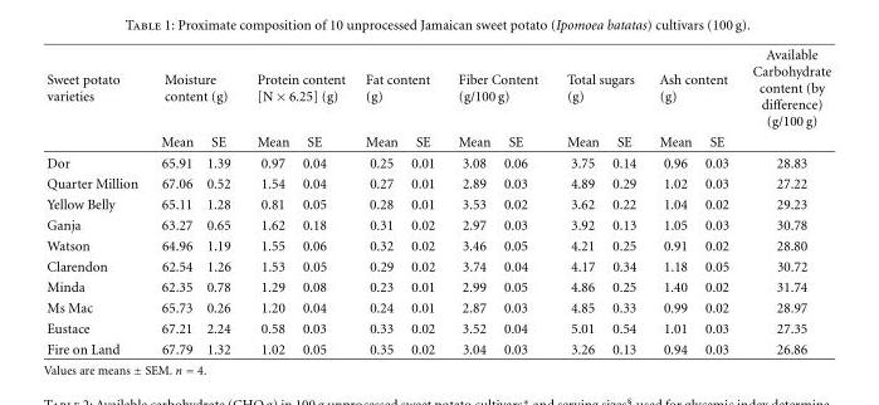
<table><thead><tr><td rowspan="2">Sweet potato varieties</td><td colspan="2">Moisture content (g)</td><td colspan="2">Protein content [N × 6.25] (g)</td><td colspan="2">Fat content (g)</td><td colspan="2">Fiber Content (g/100 g)</td><td colspan="2">Total sugars (g)</td><td colspan="2">Ash content (g)</td><td rowspan="2">Available Carbohydrate content (by difference) (g/100 g)</td></tr><tr><td>Mean</td><td>SE</td><td>Mean</td><td>SE</td><td>Mean</td><td>SE</td><td>Mean</td><td>SE</td><td>Mean</td><td>SE</td><td>Mean</td><td>SE</td></tr></thead><tbody><tr><td>Dor</td><td>65.91</td><td>1.39</td><td>0.97</td><td>0.04</td><td>0.25</td><td>0.01</td><td>3.08</td><td>0.06</td><td>3.75</td><td>0.14</td><td>0.96</td><td>0.03</td><td>28.83</td></tr><tr><td>Quarter Million</td><td>67.06</td><td>0.52</td><td>1.54</td><td>0.04</td><td>0.27</td><td>0.01</td><td>2.89</td><td>0.03</td><td>4.89</td><td>0.29</td><td>1.02</td><td>0.03</td><td>27.22</td></tr><tr><td>Yellow Belly</td><td>65.11</td><td>1.28</td><td>0.81</td><td>0.05</td><td>0.28</td><td>0.01</td><td>3.53</td><td>0.02</td><td>3.62</td><td>0.22</td><td>1.04</td><td>0.02</td><td>29.23</td></tr><tr><td>Ganja</td><td>63.27</td><td>0.65</td><td>1.62</td><td>0.18</td><td>0.31</td><td>0.02</td><td>2.97</td><td>0.03</td><td>3.92</td><td>0.13</td><td>1.05</td><td>0.03</td><td>30.78</td></tr><tr><td>Watson</td><td>64.96</td><td>1.19</td><td>1.55</td><td>0.06</td><td>0.32</td><td>0.02</td><td>3.46</td><td>0.05</td><td>4.21</td><td>0.25</td><td>0.91</td><td>0.02</td><td>28.80</td></tr><tr><td>Clarendon</td><td>62.54</td><td>1.26</td><td>1.53</td><td>0.05</td><td>0.29</td><td>0.02</td><td>3.74</td><td>0.04</td><td>4.17</td><td>0.34</td><td>1.18</td><td>0.05</td><td>30.72</td></tr><tr><td>Minda</td><td>62.35</td><td>0.78</td><td>1.29</td><td>0.08</td><td>0.23</td><td>0.01</td><td>2.99</td><td>0.05</td><td>4.86</td><td>0.25</td><td>1.40</td><td>0.02</td><td>31.74</td></tr><tr><td>Ms Mac</td><td>65.73</td><td>0.26</td><td>1.20</td><td>0.04</td><td>0.24</td><td>0.01</td><td>2.87</td><td>0.03</td><td>4.85</td><td>0.33</td><td>0.99</td><td>0.02</td><td>28.97</td></tr><tr><td>Eustace</td><td>67.21</td><td>2.24</td><td>0.58</td><td>0.03</td><td>0.33</td><td>0.02</td><td>3.52</td><td>0.04</td><td>5.01</td><td>0.54</td><td>1.01</td><td>0.03</td><td>27.35</td></tr><tr><td>Fire on Land</td><td>67.79</td><td>1.32</td><td>1.02</td><td>0.05</td><td>0.35</td><td>0.02</td><td>3.04</td><td>0.03</td><td>3.26</td><td>0.13</td><td>0.94</td><td>0.03</td><td>26.86</td></tr></tbody></table>